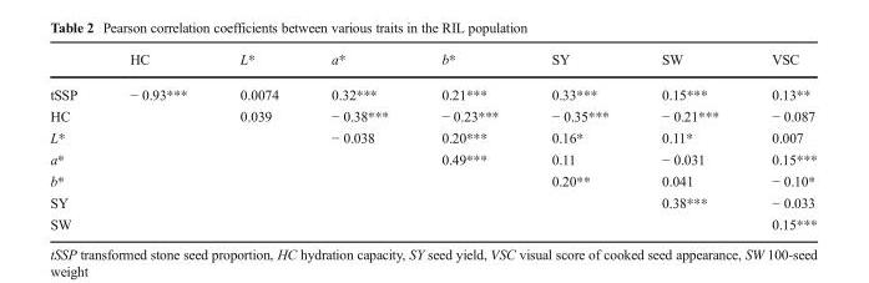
<table><thead><tr><td></td><td>HC</td><td>L*</td><td>a*</td><td>b*</td><td>SY</td><td>SW</td><td>VSC</td></tr></thead><tbody><tr><td>tSSP</td><td>− 0.93***</td><td>0.0074</td><td>0.32***</td><td>0.21***</td><td>0.33***</td><td>0.15***</td><td>0.13**</td></tr><tr><td>HC</td><td></td><td>0.039</td><td>− 0.38***</td><td>− 0.23***</td><td>− 0.35***</td><td>− 0.21***</td><td>− 0.087</td></tr><tr><td>L*</td><td></td><td></td><td>− 0.038</td><td>0.20***</td><td>0.16*</td><td>0.11*</td><td>0.007</td></tr><tr><td>a*</td><td></td><td></td><td></td><td>0.49***</td><td>0.11</td><td>− 0.031</td><td>0.15***</td></tr><tr><td>b*</td><td></td><td></td><td></td><td></td><td>0.20**</td><td>0.041</td><td>− 0.10*</td></tr><tr><td>SY</td><td></td><td></td><td></td><td></td><td></td><td>0.38***</td><td>− 0.033</td></tr><tr><td>SW</td><td></td><td></td><td></td><td></td><td></td><td></td><td>0.15***</td></tr></tbody></table>